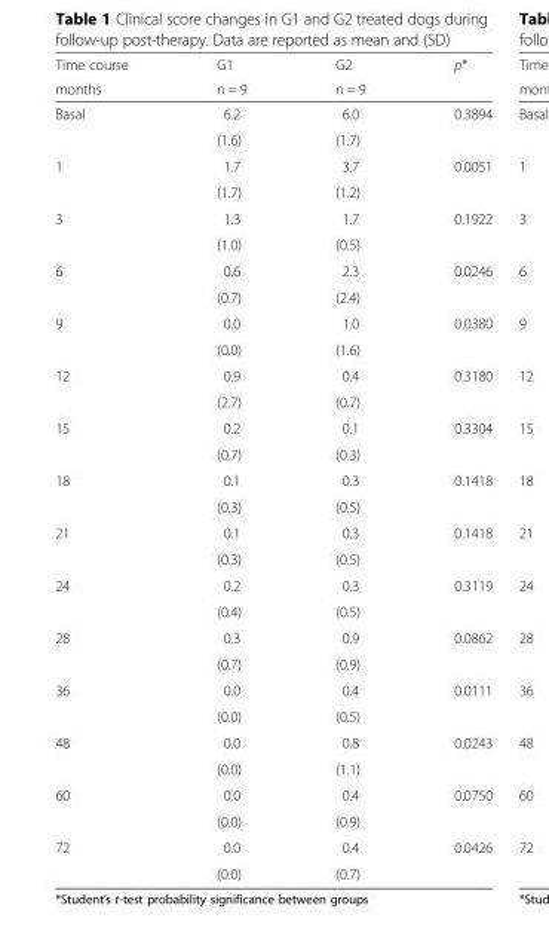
<table><thead><tr><td rowspan="2">Time course months</td><td rowspan="2">G1 n = 9</td><td rowspan="2">G2 n = 9</td><td rowspan="2">p*</td></tr><tr></tr></thead><tbody><tr><td rowspan="2">Basal</td><td>6.2</td><td>6.0</td><td rowspan="2">0.3894</td></tr><tr><td>(1.6)</td><td>(1.7)</td></tr><tr><td rowspan="2">1</td><td>1.7</td><td>3.7</td><td rowspan="2">0.0051</td></tr><tr><td>(1.7)</td><td>(1.2)</td></tr><tr><td rowspan="2">3</td><td>1.3</td><td>1.7</td><td rowspan="2">0.1922</td></tr><tr><td>(1.0)</td><td>(0.5)</td></tr><tr><td rowspan="2">6</td><td>0.6</td><td>2.3</td><td rowspan="2">0.0246</td></tr><tr><td>(0.7)</td><td>(2.4)</td></tr><tr><td rowspan="2">9</td><td>0.0</td><td>1.0</td><td rowspan="2">0.0380</td></tr><tr><td>(0.0)</td><td>(1.6)</td></tr><tr><td rowspan="2">12</td><td>0.9</td><td>0.4</td><td rowspan="2">0.3180</td></tr><tr><td>(2.7)</td><td>(0.7)</td></tr><tr><td rowspan="2">15</td><td>0.2</td><td>0.1</td><td rowspan="2">0.3304</td></tr><tr><td>(0.7)</td><td>(0.3)</td></tr><tr><td rowspan="2">18</td><td>0.1</td><td>0.3</td><td rowspan="2">0.1418</td></tr><tr><td>(0.3)</td><td>(0.5)</td></tr><tr><td rowspan="2">21</td><td>0.1</td><td>0.3</td><td rowspan="2">0.1418</td></tr><tr><td>(0.3)</td><td>(0.5)</td></tr><tr><td rowspan="2">24</td><td>0.2</td><td>0.3</td><td rowspan="2">0.3119</td></tr><tr><td>(0.4)</td><td>(0.5)</td></tr><tr><td rowspan="2">28</td><td>0.3</td><td>0.9</td><td rowspan="2">0.0862</td></tr><tr><td>(0.7)</td><td>(0.9)</td></tr><tr><td rowspan="2">36</td><td>0.0</td><td>0.4</td><td rowspan="2">0.0111</td></tr><tr><td>(0.0)</td><td>(0.5)</td></tr><tr><td rowspan="2">48</td><td>0.0</td><td>0.8</td><td rowspan="2">0.0243</td></tr><tr><td>(0.0)</td><td>(1.1)</td></tr><tr><td rowspan="2">60</td><td>0.0</td><td>0.4</td><td rowspan="2">0.0750</td></tr><tr><td>(0.0)</td><td>(0.9)</td></tr><tr><td rowspan="2">72</td><td>0.0</td><td>0.4</td><td rowspan="2">0.0426</td></tr><tr><td>(0.0)</td><td>(0.7)</td></tr></tbody></table>